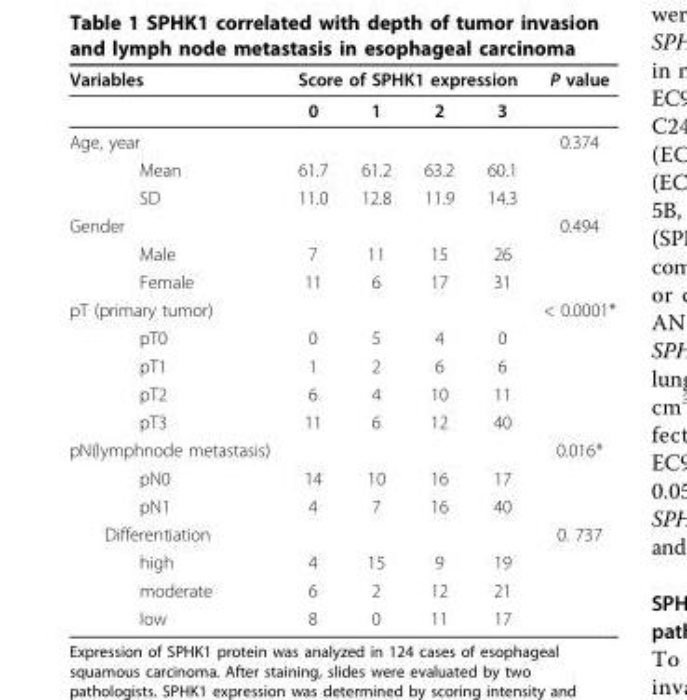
<table><thead><tr><td rowspan="2">Variables</td><td colspan="4">Score of SPHK1 expression</td><td rowspan="2">P value</td></tr><tr><td>0</td><td>1</td><td>2</td><td>3</td></tr></thead><tbody><tr><td>Age, year</td><td></td><td></td><td></td><td></td><td>0.374</td></tr><tr><td>Mean</td><td>61.7</td><td>61.2</td><td>63.2</td><td>60.1</td><td></td></tr><tr><td>SD</td><td>11.0</td><td>12.8</td><td>11.9</td><td>14.3</td><td></td></tr><tr><td>Gender</td><td></td><td></td><td></td><td></td><td>0.494</td></tr><tr><td>Male</td><td>7</td><td>11</td><td>15</td><td>26</td><td></td></tr><tr><td>Female</td><td>11</td><td>6</td><td>17</td><td>31</td><td></td></tr><tr><td>pT (primary tumor)</td><td></td><td></td><td></td><td></td><td>&lt; 0.0001*</td></tr><tr><td>pT0</td><td>0</td><td>5</td><td>4</td><td>0</td><td></td></tr><tr><td>pT1</td><td>1</td><td>2</td><td>6</td><td>6</td><td></td></tr><tr><td>pT2</td><td>6</td><td>4</td><td>10</td><td>11</td><td></td></tr><tr><td>pT3</td><td>11</td><td>6</td><td>12</td><td>40</td><td></td></tr><tr><td>pN(lymphnode metastasis)</td><td></td><td></td><td></td><td></td><td>0.016*</td></tr><tr><td>pN0</td><td>14</td><td>10</td><td>16</td><td>17</td><td></td></tr><tr><td>pN1</td><td>4</td><td>7</td><td>16</td><td>40</td><td></td></tr><tr><td>Differentiation</td><td></td><td></td><td></td><td></td><td>0. 737</td></tr><tr><td>high</td><td>4</td><td>15</td><td>9</td><td>19</td><td></td></tr><tr><td>moderate</td><td>6</td><td>2</td><td>12</td><td>21</td><td></td></tr><tr><td>low</td><td>8</td><td>0</td><td>11</td><td>17</td><td></td></tr></tbody></table>